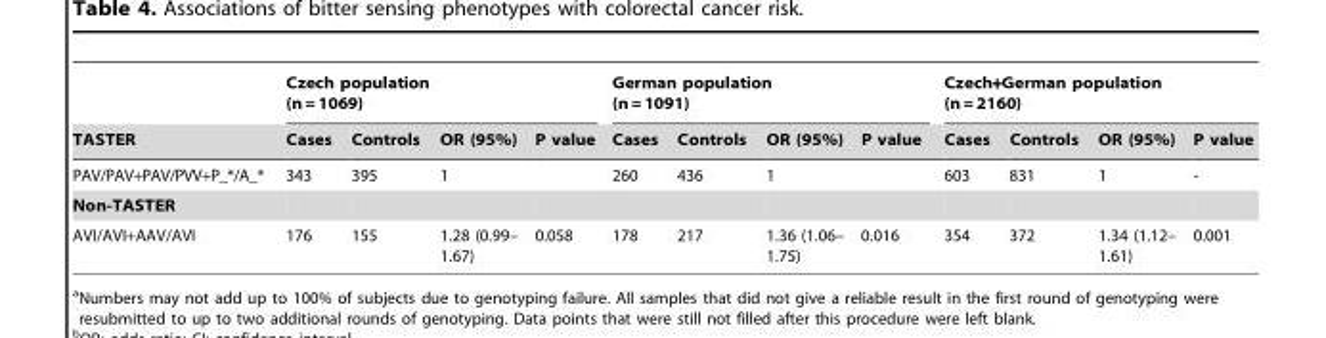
<table><thead><tr><td rowspan="2">TASTER</td><td colspan="4">Czech population (n = 1069)</td><td colspan="4">German population (n = 1091)</td><td colspan="4">Czech+German population (n = 2160)</td></tr><tr><td>Cases</td><td>Controls</td><td>OR (95%)</td><td>P value</td><td>Cases</td><td>Controls</td><td>OR (95%)</td><td>P value</td><td>Cases</td><td>Controls</td><td>OR (95%)</td><td>P value</td></tr></thead><tbody><tr><td>PAV/PAV+PAV/PVV+P_*/A_*</td><td>343</td><td>395</td><td>1</td><td></td><td>260</td><td>436</td><td>1</td><td></td><td>603</td><td>831</td><td>1</td><td>-</td></tr><tr><td colspan="13">Non-TASTER</td></tr><tr><td>AVI/AVI+AAV/AVI</td><td>176</td><td>155</td><td>1.28 (0.99– 1.67)</td><td>0.058</td><td>178</td><td>217</td><td>1.36 (1.06– 1.75)</td><td>0.016</td><td>354</td><td>372</td><td>1.34 (1.12– 1.61)</td><td>0.001</td></tr></tbody></table>